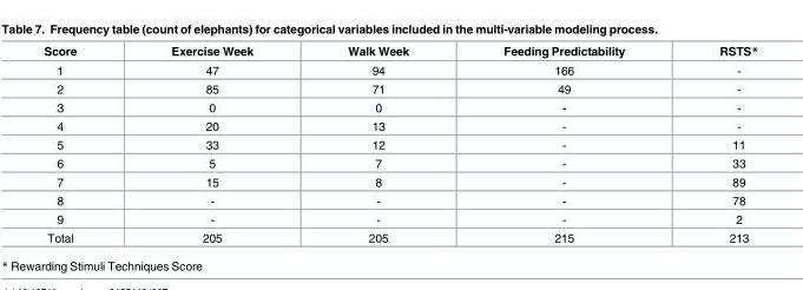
<table><thead><tr><td>Score</td><td>Exercise Week</td><td>Walk Week</td><td>Feeding Predictability</td><td>RSTS*</td></tr></thead><tbody><tr><td>1</td><td>47</td><td>94</td><td>166</td><td>-</td></tr><tr><td>2</td><td>85</td><td>71</td><td>49</td><td>-</td></tr><tr><td>3</td><td>0</td><td>0</td><td>-</td><td>-</td></tr><tr><td>4</td><td>20</td><td>13</td><td>-</td><td>-</td></tr><tr><td>5</td><td>33</td><td>12</td><td>-</td><td>11</td></tr><tr><td>6</td><td>5</td><td>7</td><td>-</td><td>33</td></tr><tr><td>7</td><td>15</td><td>8</td><td>-</td><td>89</td></tr><tr><td>8</td><td>-</td><td>-</td><td>-</td><td>78</td></tr><tr><td>9</td><td>-</td><td>-</td><td>-</td><td>2</td></tr><tr><td>Total</td><td>205</td><td>205</td><td>215</td><td>213</td></tr></tbody></table>